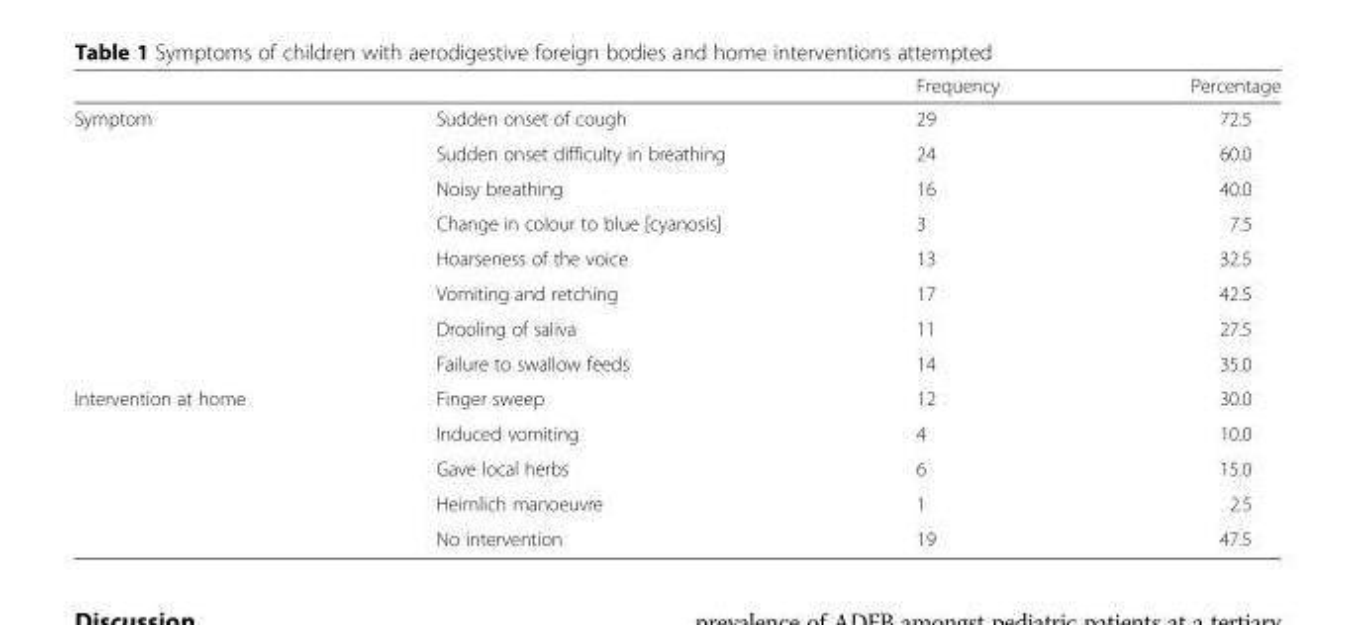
<table><thead><tr><td></td><td></td><td>Frequency</td><td>Percentage</td></tr></thead><tbody><tr><td rowspan="8">Symptom</td><td>Sudden onset of cough</td><td>29</td><td>72.5</td></tr><tr><td>Sudden onset difficulty in breathing</td><td>24</td><td>60.0</td></tr><tr><td>Noisy breathing</td><td>16</td><td>40.0</td></tr><tr><td>Change in colour to blue [cyanosis]</td><td>3</td><td>7.5</td></tr><tr><td>Hoarseness of the voice</td><td>13</td><td>32.5</td></tr><tr><td>Vomiting and retching</td><td>17</td><td>42.5</td></tr><tr><td>Drooling of saliva</td><td>11</td><td>27.5</td></tr><tr><td>Failure to swallow feeds</td><td>14</td><td>35.0</td></tr><tr><td rowspan="5">Intervention at home</td><td>Finger sweep</td><td>12</td><td>30.0</td></tr><tr><td>Induced vomiting</td><td>4</td><td>10.0</td></tr><tr><td>Gave local herbs</td><td>6</td><td>15.0</td></tr><tr><td>Heimlich manoeuvre</td><td>1</td><td>2.5</td></tr><tr><td>No intervention</td><td>19</td><td>47.5</td></tr></tbody></table>